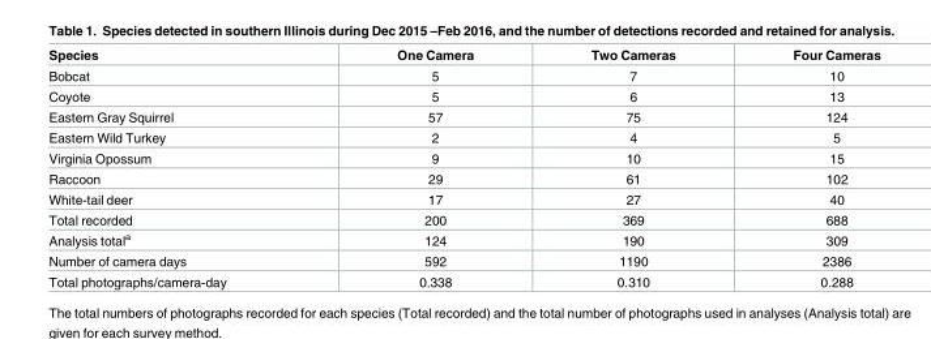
<table><thead><tr><td>Species</td><td>One Camera</td><td>Two Cameras</td><td>Four Cameras</td></tr></thead><tbody><tr><td>Bobcat</td><td>5</td><td>7</td><td>10</td></tr><tr><td>Coyote</td><td>5</td><td>6</td><td>13</td></tr><tr><td>Eastern Gray Squirrel</td><td>57</td><td>75</td><td>124</td></tr><tr><td>Eastern Wild Turkey</td><td>2</td><td>4</td><td>5</td></tr><tr><td>Virginia Opossum</td><td>9</td><td>10</td><td>15</td></tr><tr><td>Raccoon</td><td>29</td><td>61</td><td>102</td></tr><tr><td>White-tail deer</td><td>17</td><td>27</td><td>40</td></tr><tr><td>Total recorded</td><td>200</td><td>369</td><td>688</td></tr><tr><td>Analysis total<sup>a</sup></td><td>124</td><td>190</td><td>309</td></tr><tr><td>Number of camera days</td><td>592</td><td>1190</td><td>2386</td></tr><tr><td>Total photographs/camera-day</td><td>0.338</td><td>0.310</td><td>0.288</td></tr></tbody></table>